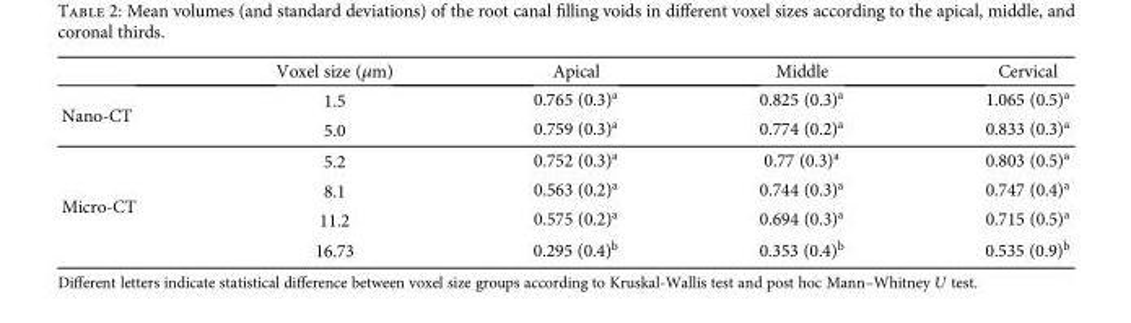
<table><thead><tr><td></td><td>Voxel size (μm)</td><td>Apical</td><td>Middle</td><td>Cervical</td></tr></thead><tbody><tr><td rowspan="2">Nano-CT</td><td>1.5</td><td>0.765 (0.3)<sup>a</sup></td><td>0.825 (0.3)<sup>a</sup></td><td>1.065 (0.5)<sup>a</sup></td></tr><tr><td>5.0</td><td>0.759 (0.3)<sup>a</sup></td><td>0.774 (0.2)<sup>a</sup></td><td>0.833 (0.3)<sup>a</sup></td></tr><tr><td rowspan="4">Micro-CT</td><td>5.2</td><td>0.752 (0.3)<sup>a</sup></td><td>0.77 (0.3)<sup>a</sup></td><td>0.803 (0.5)<sup>a</sup></td></tr><tr><td>8.1</td><td>0.563 (0.2)<sup>a</sup></td><td>0.744 (0.3)<sup>a</sup></td><td>0.747 (0.4)<sup>a</sup></td></tr><tr><td>11.2</td><td>0.575 (0.2)<sup>a</sup></td><td>0.694 (0.3)<sup>a</sup></td><td>0.715 (0.5)<sup>a</sup></td></tr><tr><td>16.73</td><td>0.295 (0.4)<sup>b</sup></td><td>0.353 (0.4)<sup>b</sup></td><td>0.535 (0.9)<sup>b</sup></td></tr></tbody></table>